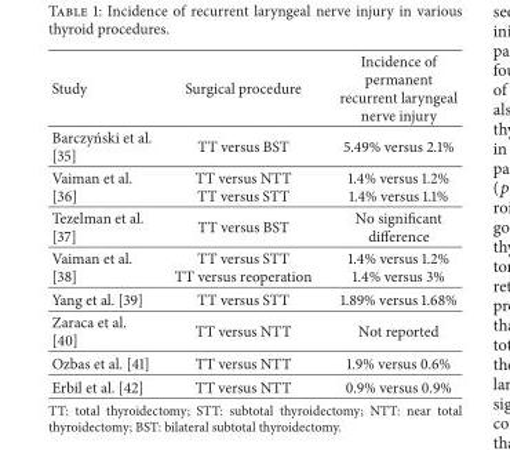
<table><thead><tr><td>Study</td><td>Surgical procedure</td><td>Incidence of permanent recurrent laryngeal nerve injury</td></tr></thead><tbody><tr><td>Barczy´nski et al. [35]</td><td>TT versus BST</td><td>5.49% versus 2.1%</td></tr><tr><td>Vaiman et al. [36]</td><td>TT versus NTT TT versus STT</td><td>1.4% versus 1.2% 1.4% versus 1.1%</td></tr><tr><td>Tezelman et al. [37]</td><td>TT versus BST</td><td>No significant difference</td></tr><tr><td>Vaiman et al. [38]</td><td>TT versus STT TT versus reoperation</td><td>1.4% versus 1.2% 1.4% versus 3%</td></tr><tr><td>Yang et al. [39]</td><td>TT versus STT</td><td>1.89% versus 1.68%</td></tr><tr><td>Zaraca et al. [40]</td><td>TT versus NTT</td><td>Not reported</td></tr><tr><td>Ozbas et al. [41]</td><td>TT versus NTT</td><td>1.9% versus 0.6%</td></tr><tr><td>Erbil et al. [42]</td><td>TT versus NTT</td><td>0.9% versus 0.9%</td></tr></tbody></table>